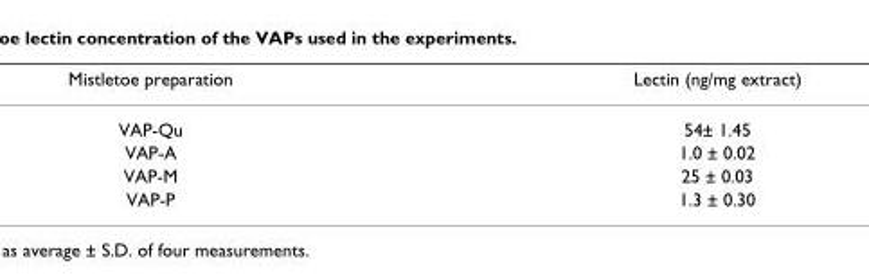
<table><thead><tr><td>Mistletoe preparation</td><td>Lectin (ng/mg extract)</td></tr></thead><tbody><tr><td>VAP-Qu</td><td>54± 1.45</td></tr><tr><td>VAP-A</td><td>1.0 ± 0.02</td></tr><tr><td>VAP-M</td><td>25 ± 0.03</td></tr><tr><td>VAP-P</td><td>1.3 ± 0.30</td></tr></tbody></table>